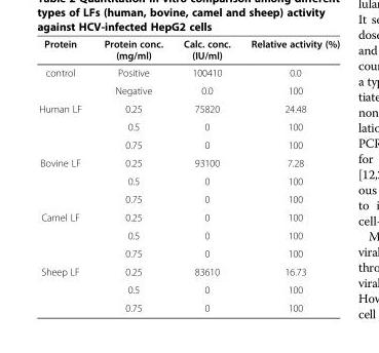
<table><thead><tr><td>Protein</td><td>Protein conc. (mg/ml)</td><td>Calc. conc. (IU/ml)</td><td>Relative activity (%)</td></tr></thead><tbody><tr><td rowspan="2">control</td><td>Positive</td><td>100410</td><td>0.0</td></tr><tr><td>Negative</td><td>0.0</td><td>100</td></tr><tr><td rowspan="3">Human LF</td><td>0.25</td><td>75820</td><td>24.48</td></tr><tr><td>0.5</td><td>0</td><td>100</td></tr><tr><td>0.75</td><td>0</td><td>100</td></tr><tr><td rowspan="3">Bovine LF</td><td>0.25</td><td>93100</td><td>7.28</td></tr><tr><td>0.5</td><td>0</td><td>100</td></tr><tr><td>0.75</td><td>0</td><td>100</td></tr><tr><td rowspan="3">Camel LF</td><td>0.25</td><td>0</td><td>100</td></tr><tr><td>0.5</td><td>0</td><td>100</td></tr><tr><td>0.75</td><td>0</td><td>100</td></tr><tr><td rowspan="3">Sheep LF</td><td>0.25</td><td>83610</td><td>16.73</td></tr><tr><td>0.5</td><td>0</td><td>100</td></tr><tr><td>0.75</td><td>0</td><td>100</td></tr></tbody></table>